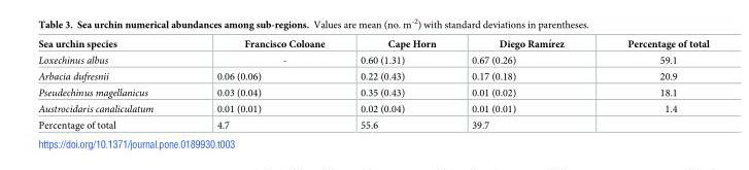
<table><thead><tr><td>Sea urchin species</td><td>Francisco Coloane</td><td>Cape Horn</td><td>Diego Ramı´rez</td><td>Percentage of total</td></tr></thead><tbody><tr><td>Loxechinus albus</td><td>-</td><td>0.60 (1.31)</td><td>0.67 (0.26)</td><td>59.1</td></tr><tr><td>Arbacia dufresnii</td><td>0.06 (0.06)</td><td>0.22 (0.43)</td><td>0.17 (0.18)</td><td>20.9</td></tr><tr><td>Pseudechinus magellanicus</td><td>0.03 (0.04)</td><td>0.35 (0.43)</td><td>0.01 (0.02)</td><td>18.1</td></tr><tr><td>Austrocidaris canaliculatum</td><td>0.01 (0.01)</td><td>0.02 (0.04)</td><td>0.01 (0.01)</td><td>1.4</td></tr><tr><td>Percentage of total</td><td>4.7</td><td>55.6</td><td>39.7</td><td></td></tr></tbody></table>